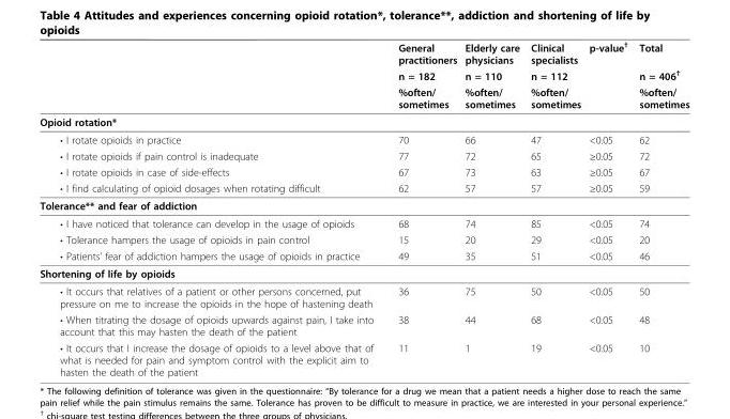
<table><thead><tr><td rowspan="3"></td><td rowspan="3">General practitioners n = 182 %often/ sometimes</td><td rowspan="3">Elderly care physicians n = 110 %often/ sometimes</td><td rowspan="3">Clinical specialists n = 112 %often/ sometimes</td><td rowspan="3">p-value†</td><td rowspan="3">Total n = 406† %often/ sometimes</td></tr><tr></tr><tr></tr></thead><tbody><tr><td colspan="6">Opioid rotation*</td></tr><tr><td>• I rotate opioids in practice</td><td>70</td><td>66</td><td>47</td><td>&lt;0.05</td><td>62</td></tr><tr><td>• I rotate opioids if pain control is inadequate</td><td>77</td><td>72</td><td>65</td><td>≥0.05</td><td>72</td></tr><tr><td>• I rotate opioids in case of side-effects</td><td>67</td><td>73</td><td>63</td><td>≥0.05</td><td>67</td></tr><tr><td>• I find calculating of opioid dosages when rotating difficult</td><td>62</td><td>57</td><td>57</td><td>≥0.05</td><td>59</td></tr><tr><td colspan="6">Tolerance** and fear of addiction</td></tr><tr><td>• I have noticed that tolerance can develop in the usage of opioids</td><td>68</td><td>74</td><td>85</td><td>&lt;0.05</td><td>74</td></tr><tr><td>• Tolerance hampers the usage of opioids in pain control</td><td>15</td><td>20</td><td>29</td><td>&lt;0.05</td><td>20</td></tr><tr><td>• Patients’ fear of addiction hampers the usage of opioids in practice</td><td>49</td><td>35</td><td>51</td><td>&lt;0.05</td><td>46</td></tr><tr><td colspan="6">Shortening of life by opioids</td></tr><tr><td>• It occurs that relatives of a patient or other persons concerned, put pressure on me to increase the opioids in the hope of hastening death</td><td>36</td><td>75</td><td>50</td><td>&lt;0.05</td><td>50</td></tr><tr><td>• When titrating the dosage of opioids upwards against pain, I take into account that this may hasten the death of the patient</td><td>38</td><td>44</td><td>68</td><td>&lt;0.05</td><td>48</td></tr><tr><td>• It occurs that I increase the dosage of opioids to a level above that of what is needed for pain and symptom control with the explicit aim to hasten the death of the patient</td><td>11</td><td>1</td><td>19</td><td>&lt;0.05</td><td>10</td></tr></tbody></table>